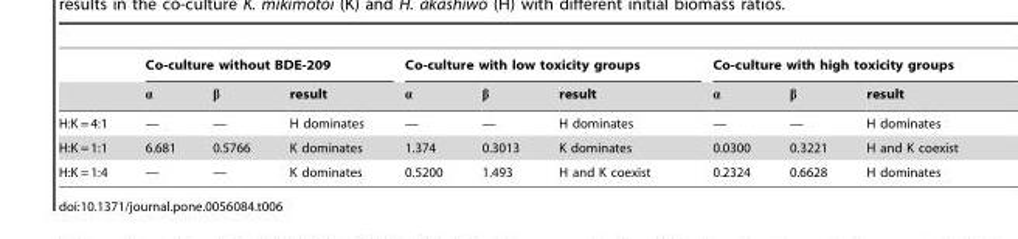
<table><thead><tr><td rowspan="2"></td><td colspan="3">Co-culture without BDE-209</td><td colspan="3">Co-culture with low toxicity groups</td><td colspan="3">Co-culture with high toxicity groups</td></tr><tr><td>α</td><td>β</td><td>result</td><td>α</td><td>β</td><td>result</td><td>α</td><td>β</td><td>result</td></tr></thead><tbody><tr><td>H:K = 4:1</td><td>—</td><td>—</td><td>H dominates</td><td>—</td><td>—</td><td>H dominates</td><td>—</td><td>—</td><td>H dominates</td></tr><tr><td>H:K = 1:1</td><td>6.681</td><td>0.5766</td><td>K dominates</td><td>1.374</td><td>0.3013</td><td>K dominates</td><td>0.0300</td><td>0.3221</td><td>H and K coexist</td></tr><tr><td>H:K = 1:4</td><td>—</td><td>—</td><td>K dominates</td><td>0.5200</td><td>1.493</td><td>H and K coexist</td><td>0.2324</td><td>0.6628</td><td>H dominates</td></tr></tbody></table>